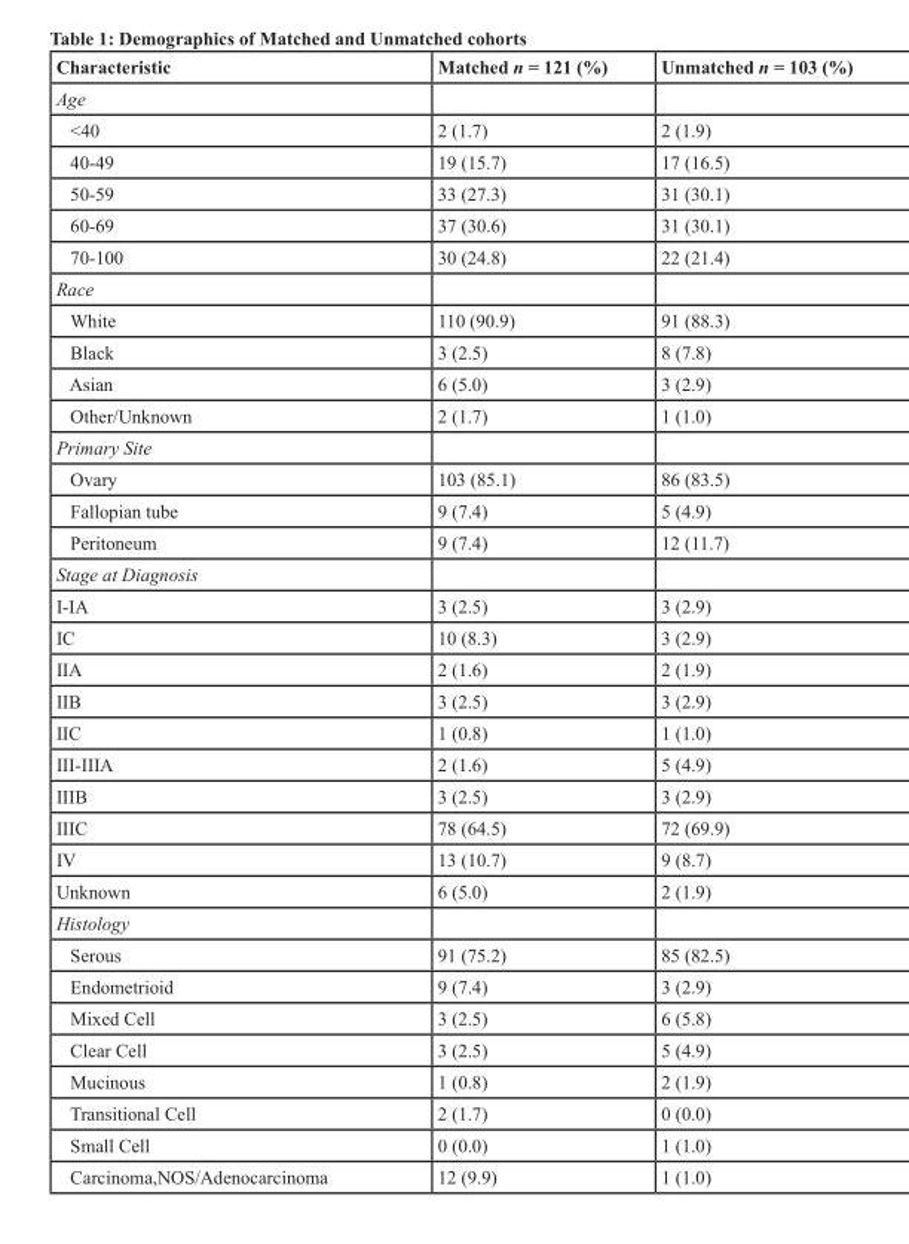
<table><thead><tr><td>Characteristic</td><td>Matched n = 121 (%)</td><td>Unmatched n = 103 (%)</td></tr></thead><tbody><tr><td colspan="3">Age</td></tr><tr><td>&lt;40</td><td>2 (1.7)</td><td>2 (1.9)</td></tr><tr><td>40-49</td><td>19 (15.7)</td><td>17 (16.5)</td></tr><tr><td>50-59</td><td>33 (27.3)</td><td>31 (30.1)</td></tr><tr><td>60-69</td><td>37 (30.6)</td><td>31 (30.1)</td></tr><tr><td>70-100</td><td>30 (24.8)</td><td>22 (21.4)</td></tr><tr><td colspan="3">Race</td></tr><tr><td>White</td><td>110 (90.9)</td><td>91 (88.3)</td></tr><tr><td>Black</td><td>3 (2.5)</td><td>8 (7.8)</td></tr><tr><td>Asian</td><td>6 (5.0)</td><td>3 (2.9)</td></tr><tr><td>Other/Unknown</td><td>2 (1.7)</td><td>1 (1.0)</td></tr><tr><td colspan="3">Primary Site</td></tr><tr><td>Ovary</td><td>103 (85.1)</td><td>86 (83.5)</td></tr><tr><td>Fallopian tube</td><td>9 (7.4)</td><td>5 (4.9)</td></tr><tr><td>Peritoneum</td><td>9 (7.4)</td><td>12 (11.7)</td></tr><tr><td colspan="3">Stage at Diagnosis</td></tr><tr><td>I-IA</td><td>3 (2.5)</td><td>3 (2.9)</td></tr><tr><td>IC</td><td>10 (8.3)</td><td>3 (2.9)</td></tr><tr><td>IIA</td><td>2 (1.6)</td><td>2 (1.9)</td></tr><tr><td>IIB</td><td>3 (2.5)</td><td>3 (2.9)</td></tr><tr><td>IIC</td><td>1 (0.8)</td><td>1 (1.0)</td></tr><tr><td>III-IIIA</td><td>2 (1.6)</td><td>5 (4.9)</td></tr><tr><td>IIIB</td><td>3 (2.5)</td><td>3 (2.9)</td></tr><tr><td>IIIC</td><td>78 (64.5)</td><td>72 (69.9)</td></tr><tr><td>IV</td><td>13 (10.7)</td><td>9 (8.7)</td></tr><tr><td>Unknown</td><td>6 (5.0)</td><td>2 (1.9)</td></tr><tr><td colspan="3">Histology</td></tr><tr><td>Serous</td><td>91 (75.2)</td><td>85 (82.5)</td></tr><tr><td>Endometrioid</td><td>9 (7.4)</td><td>3 (2.9)</td></tr><tr><td>Mixed Cell</td><td>3 (2.5)</td><td>6 (5.8)</td></tr><tr><td>Clear Cell</td><td>3 (2.5)</td><td>5 (4.9)</td></tr><tr><td>Mucinous</td><td>1 (0.8)</td><td>2 (1.9)</td></tr><tr><td>Transitional Cell</td><td>2 (1.7)</td><td>0 (0.0)</td></tr><tr><td>Small Cell</td><td>0 (0.0)</td><td>1 (1.0)</td></tr><tr><td>Carcinoma,NOS/Adenocarcinoma</td><td>12 (9.9)</td><td>1 (1.0)</td></tr></tbody></table>